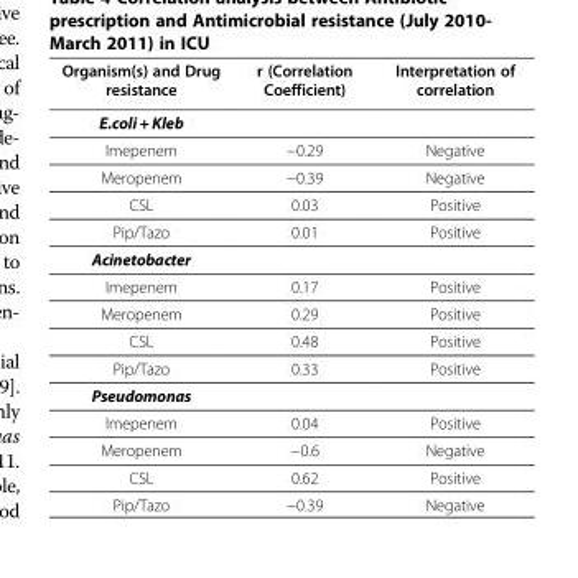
<table><thead><tr><td>Organism(s) and Drug resistance</td><td>r (Correlation Coefficient)</td><td>Interpretation of correlation</td></tr></thead><tbody><tr><td colspan="3">E.coli + Kleb</td></tr><tr><td>Imepenem</td><td>−0.29</td><td>Negative</td></tr><tr><td>Meropenem</td><td>−0.39</td><td>Negative</td></tr><tr><td>CSL</td><td>0.03</td><td>Positive</td></tr><tr><td>Pip/Tazo</td><td>0.01</td><td>Positive</td></tr><tr><td colspan="3">Acinetobacter</td></tr><tr><td>Imepenem</td><td>0.17</td><td>Positive</td></tr><tr><td>Meropenem</td><td>0.29</td><td>Positive</td></tr><tr><td>CSL</td><td>0.48</td><td>Positive</td></tr><tr><td>Pip/Tazo</td><td>0.33</td><td>Positive</td></tr><tr><td colspan="3">Pseudomonas</td></tr><tr><td>Imepenem</td><td>0.04</td><td>Positive</td></tr><tr><td>Meropenem</td><td>−0.6</td><td>Negative</td></tr><tr><td>CSL</td><td>0.62</td><td>Positive</td></tr><tr><td>Pip/Tazo</td><td>−0.39</td><td>Negative</td></tr></tbody></table>